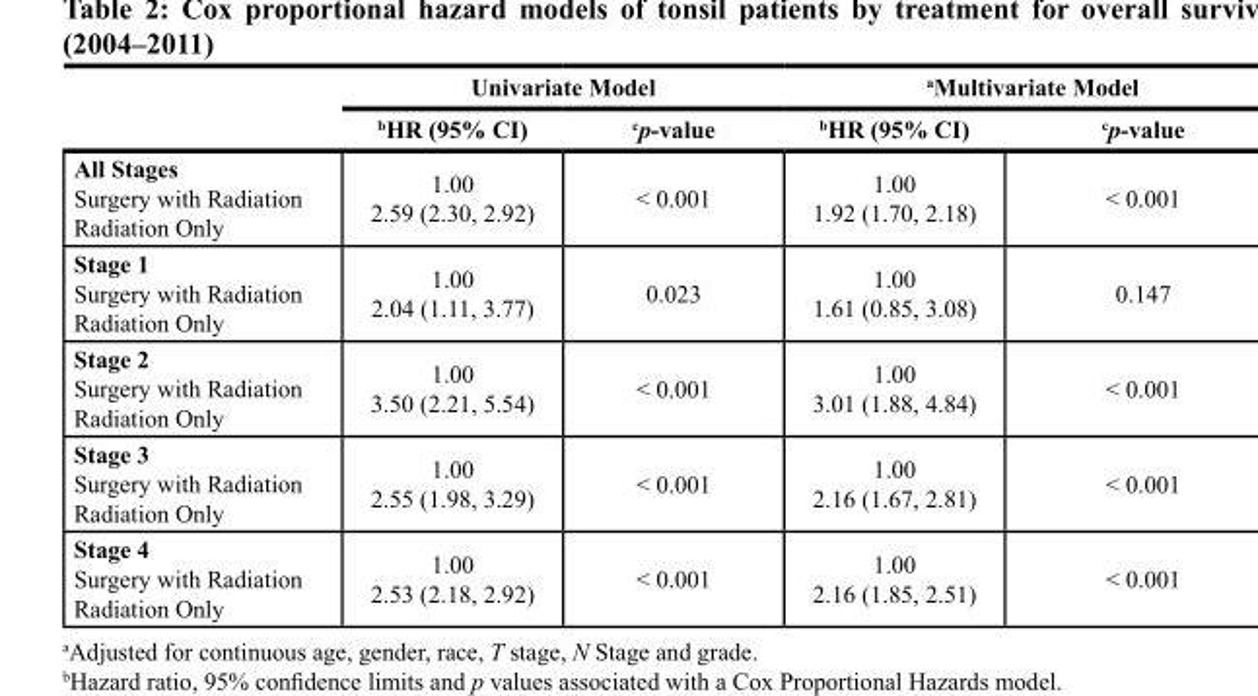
<table><thead><tr><td rowspan="2"></td><td colspan="2">Univariate Model</td><td colspan="2"><sup>a</sup>Multivariate Model</td></tr><tr><td><sup>b</sup>HR (95% CI)</td><td><sup>c</sup>p-value</td><td><sup>b</sup>HR (95% CI)</td><td><sup>c</sup>p-value</td></tr></thead><tbody><tr><td>All Stages Surgery with Radiation Radiation Only</td><td>1.00 2.59 (2.30, 2.92)</td><td>&lt; 0.001</td><td>1.00 1.92 (1.70, 2.18)</td><td>&lt; 0.001</td></tr><tr><td>Stage 1 Surgery with Radiation Radiation Only</td><td>1.00 2.04 (1.11, 3.77)</td><td>0.023</td><td>1.00 1.61 (0.85, 3.08)</td><td>0.147</td></tr><tr><td>Stage 2 Surgery with Radiation Radiation Only</td><td>1.00 3.50 (2.21, 5.54)</td><td>&lt; 0.001</td><td>1.00 3.01 (1.88, 4.84)</td><td>&lt; 0.001</td></tr><tr><td>Stage 3 Surgery with Radiation Radiation Only</td><td>1.00 2.55 (1.98, 3.29)</td><td>&lt; 0.001</td><td>1.00 2.16 (1.67, 2.81)</td><td>&lt; 0.001</td></tr><tr><td>Stage 4 Surgery with Radiation Radiation Only</td><td>1.00 2.53 (2.18, 2.92)</td><td>&lt; 0.001</td><td>1.00 2.16 (1.85, 2.51)</td><td>&lt; 0.001</td></tr></tbody></table>